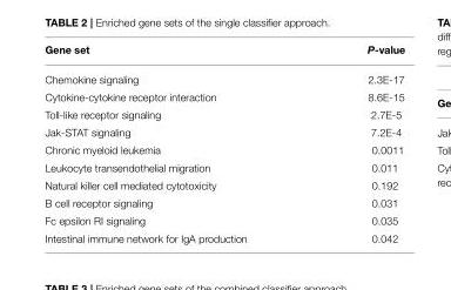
<table><thead><tr><td>Gene set</td><td>P-value</td></tr></thead><tbody><tr><td>Chemokine signaling</td><td>2.3E-17</td></tr><tr><td>Cytokine-cytokine receptor interaction</td><td>8.6E-15</td></tr><tr><td>Toll-like receptor signaling</td><td>2.7E-5</td></tr><tr><td>Jak-STAT signaling</td><td>7.2E-4</td></tr><tr><td>Chronic myeloid leukemia</td><td>0.0011</td></tr><tr><td>Leukocyte transendothelial migration</td><td>0.011</td></tr><tr><td>Natural killer cell mediated cytotoxicity</td><td>0.192</td></tr><tr><td>B cell receptor signaling</td><td>0.031</td></tr><tr><td>Fc epsilon RI signaling</td><td>0.035</td></tr><tr><td>Intestinal immune network for IgA production</td><td>0.042</td></tr></tbody></table>